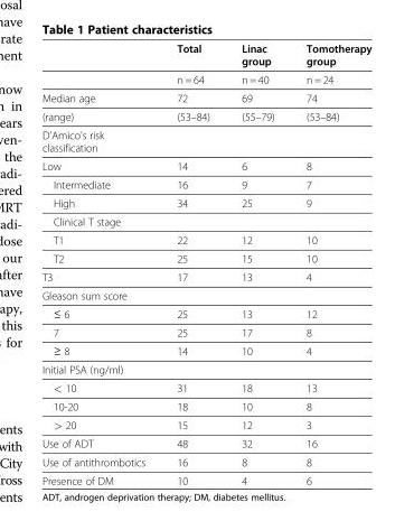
<table><thead><tr><td></td><td>Total</td><td>Linac group</td><td>Tomotherapy group</td></tr></thead><tbody><tr><td></td><td>n = 64</td><td>n = 40</td><td>n = 24</td></tr><tr><td>Median age</td><td>72</td><td>69</td><td>74</td></tr><tr><td>(range)</td><td>(53–84)</td><td>(55–79)</td><td>(53–84)</td></tr><tr><td colspan="4">D&#x27;Amico&#x27;s risk classification</td></tr><tr><td>Low</td><td>14</td><td>6</td><td>8</td></tr><tr><td>Intermediate</td><td>16</td><td>9</td><td>7</td></tr><tr><td>High</td><td>34</td><td>25</td><td>9</td></tr><tr><td colspan="4">Clinical T stage</td></tr><tr><td>T1</td><td>22</td><td>12</td><td>10</td></tr><tr><td>T2</td><td>25</td><td>15</td><td>10</td></tr><tr><td>T3</td><td>17</td><td>13</td><td>4</td></tr><tr><td colspan="4">Gleason sum score</td></tr><tr><td>≤ 6</td><td>25</td><td>13</td><td>12</td></tr><tr><td>7</td><td>25</td><td>17</td><td>8</td></tr><tr><td>≥ 8</td><td>14</td><td>10</td><td>4</td></tr><tr><td colspan="4">Initial PSA (ng/ml)</td></tr><tr><td>&lt; 10</td><td>31</td><td>18</td><td>13</td></tr><tr><td>10-20</td><td>18</td><td>10</td><td>8</td></tr><tr><td>&gt; 20</td><td>15</td><td>12</td><td>3</td></tr><tr><td>Use of ADT</td><td>48</td><td>32</td><td>16</td></tr><tr><td>Use of antithrombotics</td><td>16</td><td>8</td><td>8</td></tr><tr><td>Presence of DM</td><td>10</td><td>4</td><td>6</td></tr></tbody></table>